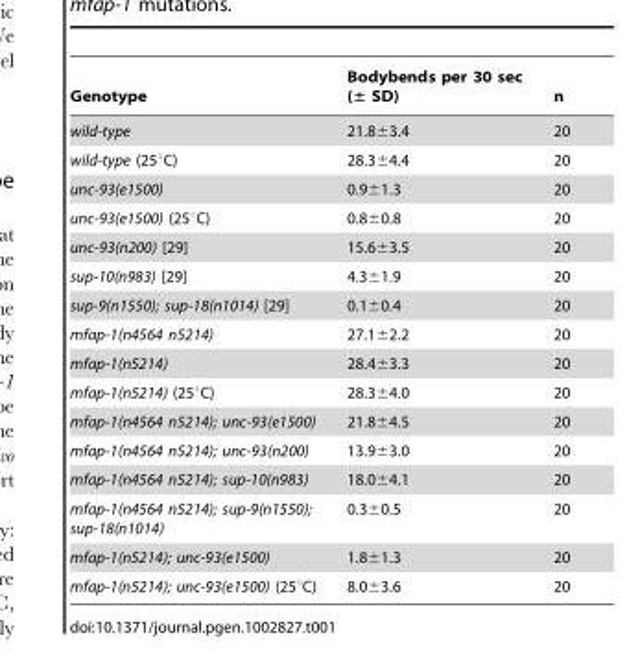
<table><thead><tr><td>Genotype</td><td>Bodybends per 30 sec (± SD)</td><td>n</td></tr></thead><tbody><tr><td>wild-type</td><td>21.8±3.4</td><td>20</td></tr><tr><td>wild-type (25°C)</td><td>28.3±4.4</td><td>20</td></tr><tr><td>unc-93(e1500)</td><td>0.9±1.3</td><td>20</td></tr><tr><td>unc-93(e1500) (25°C)</td><td>0.8±0.8</td><td>20</td></tr><tr><td>unc-93(n200) [29]</td><td>15.6±3.5</td><td>20</td></tr><tr><td>sup-10(n983) [29]</td><td>4.3±1.9</td><td>20</td></tr><tr><td>sup-9(n1550); sup-18(n1014) [29]</td><td>0.1±0.4</td><td>20</td></tr><tr><td>mfap-1(n4564 n5214)</td><td>27.1±2.2</td><td>20</td></tr><tr><td>mfap-1(n5214)</td><td>28.4±3.3</td><td>20</td></tr><tr><td>mfap-1(n5214) (25°C)</td><td>28.3±4.0</td><td>20</td></tr><tr><td>mfap-1(n4564 n5214); unc-93(e1500)</td><td>21.8±4.5</td><td>20</td></tr><tr><td>mfap-1(n4564 n5214); unc-93(n200)</td><td>13.9±3.0</td><td>20</td></tr><tr><td>mfap-1(n4564 n5214); sup-10(n983)</td><td>18.0±4.1</td><td>20</td></tr><tr><td>mfap-1(n4564 n5214); sup-9(n1550); sup-18(n1014)</td><td>0.3±0.5</td><td>20</td></tr><tr><td>mfap-1(n5214); unc-93(e1500)</td><td>1.8±1.3</td><td>20</td></tr><tr><td>mfap-1(n5214); unc-93(e1500) (25°C)</td><td>8.0±3.6</td><td>20</td></tr></tbody></table>